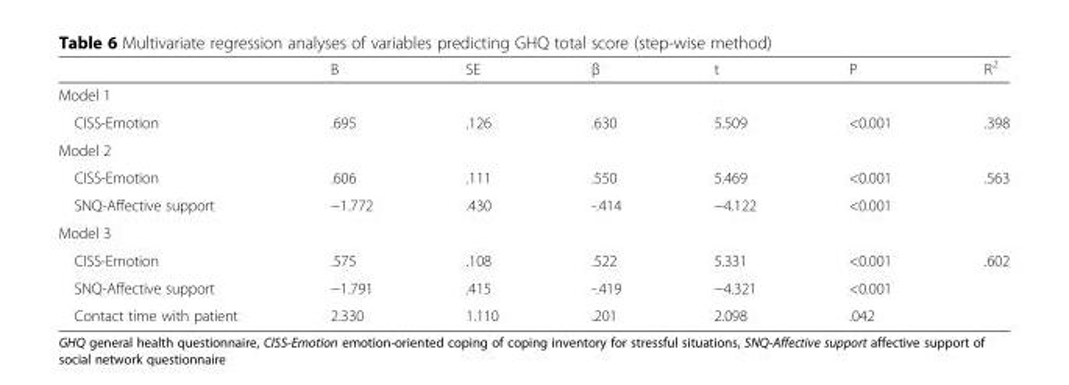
<table><thead><tr><td></td><td>B</td><td>SE</td><td>β</td><td>t</td><td>P</td><td>R<sup>2</sup></td></tr></thead><tbody><tr><td colspan="7">Model 1</td></tr><tr><td>CISS-Emotion</td><td>.695</td><td>.126</td><td>.630</td><td>5.509</td><td>&lt;0.001</td><td>.398</td></tr><tr><td colspan="7">Model 2</td></tr><tr><td>CISS-Emotion</td><td>.606</td><td>.111</td><td>.550</td><td>5.469</td><td>&lt;0.001</td><td>.563</td></tr><tr><td>SNQ-Affective support</td><td>−1.772</td><td>.430</td><td>-.414</td><td>−4.122</td><td>&lt;0.001</td><td></td></tr><tr><td colspan="7">Model 3</td></tr><tr><td>CISS-Emotion</td><td>.575</td><td>.108</td><td>.522</td><td>5.331</td><td>&lt;0.001</td><td>.602</td></tr><tr><td>SNQ-Affective support</td><td>−1.791</td><td>.415</td><td>-.419</td><td>−4.321</td><td>&lt;0.001</td><td></td></tr><tr><td>Contact time with patient</td><td>2.330</td><td>1.110</td><td>.201</td><td>2.098</td><td>.042</td><td></td></tr></tbody></table>